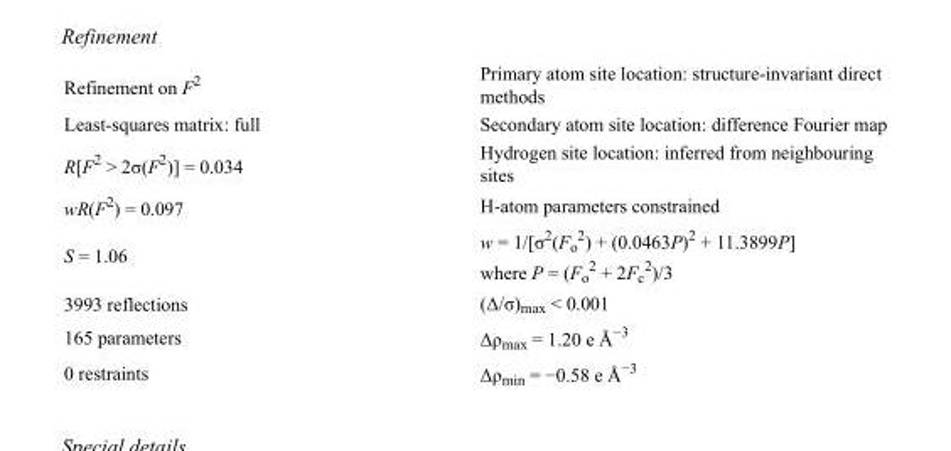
<table><tbody><tr><td>Refinement on F<sup>2</sup></td><td>Primary atom site location: structure-invariant direct methods</td></tr><tr><td>Least-squares matrix: full</td><td>Secondary atom site location: difference Fourier map</td></tr><tr><td>R[F<sup>2</sup> &gt; 2σ(F<sup>2</sup>)] = 0.034</td><td>Hydrogen site location: inferred from neighbouring sites</td></tr><tr><td>wR(F<sup>2</sup>) = 0.097</td><td>H-atom parameters constrained</td></tr><tr><td>S = 1.06</td><td>w = 1/[σ<sup>2</sup>(F<sub>o</sub> <sup>2</sup>) + (0.0463P)<sup>2</sup> + 11.3899P] where P = (F<sub>o</sub> <sup>2</sup> + 2F<sub>c</sub> <sup>2</sup>)/3</td></tr><tr><td>3993 reflections</td><td>(Δ/σ)<sub>max</sub> &lt; 0.001</td></tr><tr><td>165 parameters</td><td>Δρ<sub>max</sub> = 1.20 e Å<sup>−3</sup></td></tr><tr><td>0 restraints</td><td>Δρ<sub>min</sub> = −0.58 e Å<sup>−3</sup></td></tr></tbody></table>